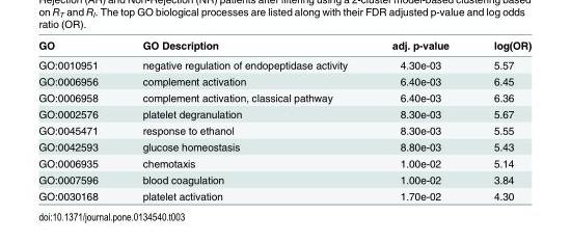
<table><thead><tr><td>GO</td><td>GO Description</td><td>adj. p-value</td><td>log(OR)</td></tr></thead><tbody><tr><td>GO:0010951</td><td>negative regulation of endopeptidase activity</td><td>4.30e-03</td><td>5.57</td></tr><tr><td>GO:0006956</td><td>complement activation</td><td>6.40e-03</td><td>6.45</td></tr><tr><td>GO:0006958</td><td>complement activation, classical pathway</td><td>6.40e-03</td><td>6.36</td></tr><tr><td>GO:0002576</td><td>platelet degranulation</td><td>8.30e-03</td><td>5.67</td></tr><tr><td>GO:0045471</td><td>response to ethanol</td><td>8.30e-03</td><td>5.55</td></tr><tr><td>GO:0042593</td><td>glucose homeostasis</td><td>8.80e-03</td><td>5.43</td></tr><tr><td>GO:0006935</td><td>chemotaxis</td><td>1.00e-02</td><td>5.14</td></tr><tr><td>GO:0007596</td><td>blood coagulation</td><td>1.00e-02</td><td>3.84</td></tr><tr><td>GO:0030168</td><td>platelet activation</td><td>1.70e-02</td><td>4.30</td></tr></tbody></table>